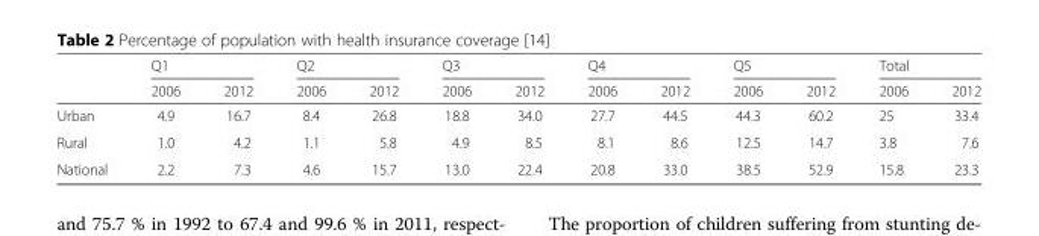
<table><thead><tr><td rowspan="2"></td><td colspan="2">Q1</td><td colspan="2">Q2</td><td colspan="2">Q3</td><td colspan="2">Q4</td><td colspan="2">Q5</td><td colspan="2">Total</td></tr><tr><td>2006</td><td>2012</td><td>2006</td><td>2012</td><td>2006</td><td>2012</td><td>2006</td><td>2012</td><td>2006</td><td>2012</td><td>2006</td><td>2012</td></tr></thead><tbody><tr><td>Urban</td><td>4.9</td><td>16.7</td><td>8.4</td><td>26.8</td><td>18.8</td><td>34.0</td><td>27.7</td><td>44.5</td><td>44.3</td><td>60.2</td><td>25</td><td>33.4</td></tr><tr><td>Rural</td><td>1.0</td><td>4.2</td><td>1.1</td><td>5.8</td><td>4.9</td><td>8.5</td><td>8.1</td><td>8.6</td><td>12.5</td><td>14.7</td><td>3.8</td><td>7.6</td></tr><tr><td>National</td><td>2.2</td><td>7.3</td><td>4.6</td><td>15.7</td><td>13.0</td><td>22.4</td><td>20.8</td><td>33.0</td><td>38.5</td><td>52.9</td><td>15.8</td><td>23.3</td></tr></tbody></table>